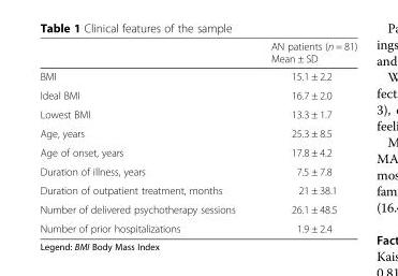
<table><thead><tr><td></td><td>AN patients (n = 81) Mean ± SD</td></tr></thead><tbody><tr><td>BMI</td><td>15.1 ± 2.2</td></tr><tr><td>Ideal BMI</td><td>16.7 ± 2.0</td></tr><tr><td>Lowest BMI</td><td>13.3 ± 1.7</td></tr><tr><td>Age, years</td><td>25.3 ± 8.5</td></tr><tr><td>Age of onset, years</td><td>17.8 ± 4.2</td></tr><tr><td>Duration of illness, years</td><td>7.5 ± 7.8</td></tr><tr><td>Duration of outpatient treatment, months</td><td>21 ± 38.1</td></tr><tr><td>Number of delivered psychotherapy sessions</td><td>26.1 ± 48.5</td></tr><tr><td>Number of prior hospitalizations</td><td>1.9 ± 2.4</td></tr></tbody></table>